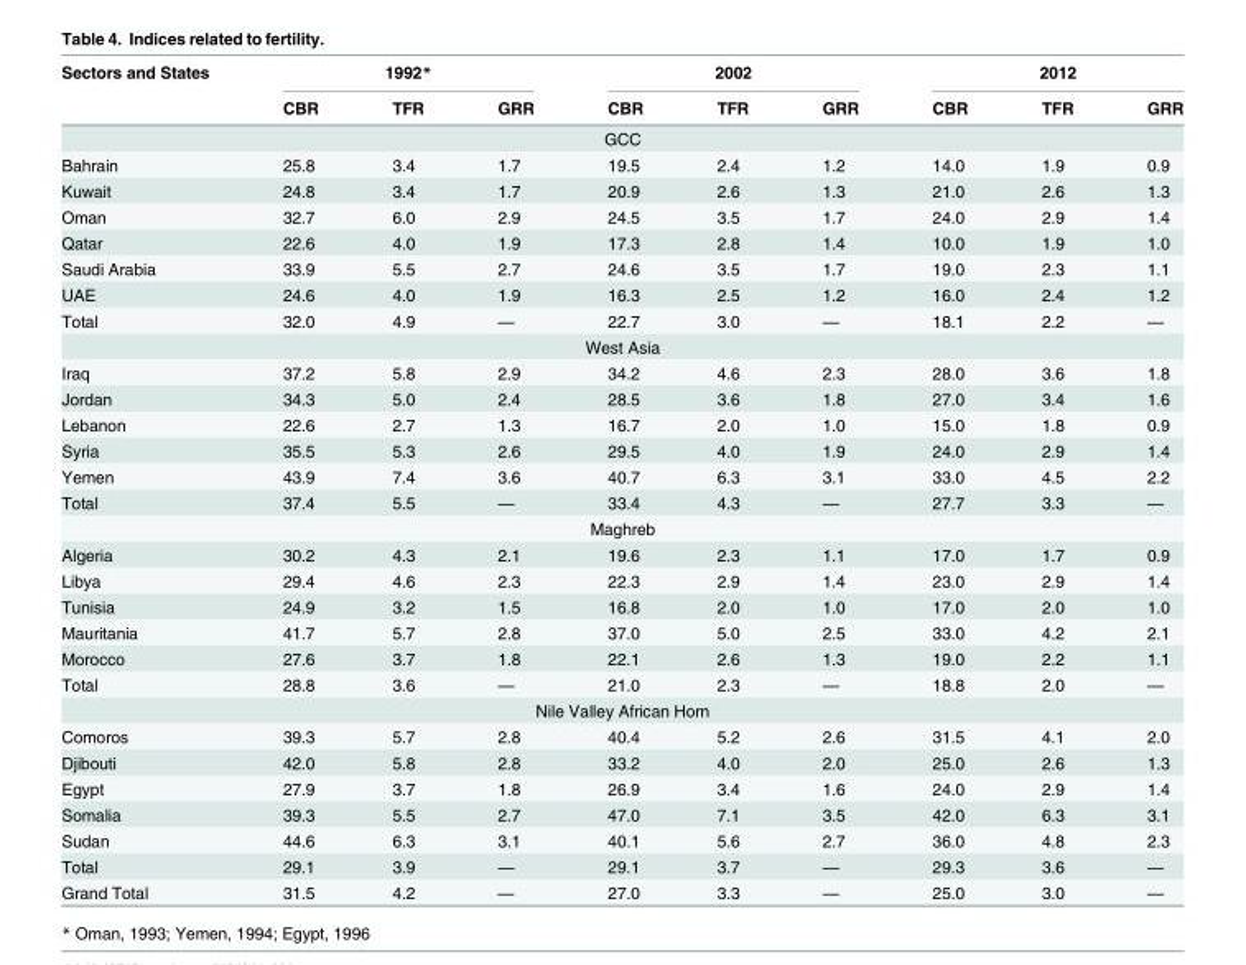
<table><thead><tr><td rowspan="2">Sectors and States</td><td colspan="3">1992*</td><td colspan="3">2002</td><td colspan="3">2012</td></tr><tr><td>CBR</td><td>TFR</td><td>GRR</td><td>CBR</td><td>TFR</td><td>GRR</td><td>CBR</td><td>TFR</td><td>GRR</td></tr></thead><tbody><tr><td colspan="10">GCC</td></tr><tr><td>Bahrain</td><td>25.8</td><td>3.4</td><td>1.7</td><td>19.5</td><td>2.4</td><td>1.2</td><td>14.0</td><td>1.9</td><td>0.9</td></tr><tr><td>Kuwait</td><td>24.8</td><td>3.4</td><td>1.7</td><td>20.9</td><td>2.6</td><td>1.3</td><td>21.0</td><td>2.6</td><td>1.3</td></tr><tr><td>Oman</td><td>32.7</td><td>6.0</td><td>2.9</td><td>24.5</td><td>3.5</td><td>1.7</td><td>24.0</td><td>2.9</td><td>1.4</td></tr><tr><td>Qatar</td><td>22.6</td><td>4.0</td><td>1.9</td><td>17.3</td><td>2.8</td><td>1.4</td><td>10.0</td><td>1.9</td><td>1.0</td></tr><tr><td>Saudi Arabia</td><td>33.9</td><td>5.5</td><td>2.7</td><td>24.6</td><td>3.5</td><td>1.7</td><td>19.0</td><td>2.3</td><td>1.1</td></tr><tr><td>UAE</td><td>24.6</td><td>4.0</td><td>1.9</td><td>16.3</td><td>2.5</td><td>1.2</td><td>16.0</td><td>2.4</td><td>1.2</td></tr><tr><td>Total</td><td>32.0</td><td>4.9</td><td>—</td><td>22.7</td><td>3.0</td><td>—</td><td>18.1</td><td>2.2</td><td>—</td></tr><tr><td colspan="10">West Asia</td></tr><tr><td>Iraq</td><td>37.2</td><td>5.8</td><td>2.9</td><td>34.2</td><td>4.6</td><td>2.3</td><td>28.0</td><td>3.6</td><td>1.8</td></tr><tr><td>Jordan</td><td>34.3</td><td>5.0</td><td>2.4</td><td>28.5</td><td>3.6</td><td>1.8</td><td>27.0</td><td>3.4</td><td>1.6</td></tr><tr><td>Lebanon</td><td>22.6</td><td>2.7</td><td>1.3</td><td>16.7</td><td>2.0</td><td>1.0</td><td>15.0</td><td>1.8</td><td>0.9</td></tr><tr><td>Syria</td><td>35.5</td><td>5.3</td><td>2.6</td><td>29.5</td><td>4.0</td><td>1.9</td><td>24.0</td><td>2.9</td><td>1.4</td></tr><tr><td>Yemen</td><td>43.9</td><td>7.4</td><td>3.6</td><td>40.7</td><td>6.3</td><td>3.1</td><td>33.0</td><td>4.5</td><td>2.2</td></tr><tr><td>Total</td><td>37.4</td><td>5.5</td><td>—</td><td>33.4</td><td>4.3</td><td>—</td><td>27.7</td><td>3.3</td><td>—</td></tr><tr><td colspan="10">Maghreb</td></tr><tr><td>Algeria</td><td>30.2</td><td>4.3</td><td>2.1</td><td>19.6</td><td>2.3</td><td>1.1</td><td>17.0</td><td>1.7</td><td>0.9</td></tr><tr><td>Libya</td><td>29.4</td><td>4.6</td><td>2.3</td><td>22.3</td><td>2.9</td><td>1.4</td><td>23.0</td><td>2.9</td><td>1.4</td></tr><tr><td>Tunisia</td><td>24.9</td><td>3.2</td><td>1.5</td><td>16.8</td><td>2.0</td><td>1.0</td><td>17.0</td><td>2.0</td><td>1.0</td></tr><tr><td>Mauritania</td><td>41.7</td><td>5.7</td><td>2.8</td><td>37.0</td><td>5.0</td><td>2.5</td><td>33.0</td><td>4.2</td><td>2.1</td></tr><tr><td>Morocco</td><td>27.6</td><td>3.7</td><td>1.8</td><td>22.1</td><td>2.6</td><td>1.3</td><td>19.0</td><td>2.2</td><td>1.1</td></tr><tr><td>Total</td><td>28.8</td><td>3.6</td><td>—</td><td>21.0</td><td>2.3</td><td>—</td><td>18.8</td><td>2.0</td><td>—</td></tr><tr><td colspan="10">Nile Valley African Horn</td></tr><tr><td>Comoros</td><td>39.3</td><td>5.7</td><td>2.8</td><td>40.4</td><td>5.2</td><td>2.6</td><td>31.5</td><td>4.1</td><td>2.0</td></tr><tr><td>Djibouti</td><td>42.0</td><td>5.8</td><td>2.8</td><td>33.2</td><td>4.0</td><td>2.0</td><td>25.0</td><td>2.6</td><td>1.3</td></tr><tr><td>Egypt</td><td>27.9</td><td>3.7</td><td>1.8</td><td>26.9</td><td>3.4</td><td>1.6</td><td>24.0</td><td>2.9</td><td>1.4</td></tr><tr><td>Somalia</td><td>39.3</td><td>5.5</td><td>2.7</td><td>47.0</td><td>7.1</td><td>3.5</td><td>42.0</td><td>6.3</td><td>3.1</td></tr><tr><td>Sudan</td><td>44.6</td><td>6.3</td><td>3.1</td><td>40.1</td><td>5.6</td><td>2.7</td><td>36.0</td><td>4.8</td><td>2.3</td></tr><tr><td>Total</td><td>29.1</td><td>3.9</td><td>—</td><td>29.1</td><td>3.7</td><td>—</td><td>29.3</td><td>3.6</td><td>—</td></tr><tr><td>Grand Total</td><td>31.5</td><td>4.2</td><td>—</td><td>27.0</td><td>3.3</td><td>—</td><td>25.0</td><td>3.0</td><td>—</td></tr></tbody></table>